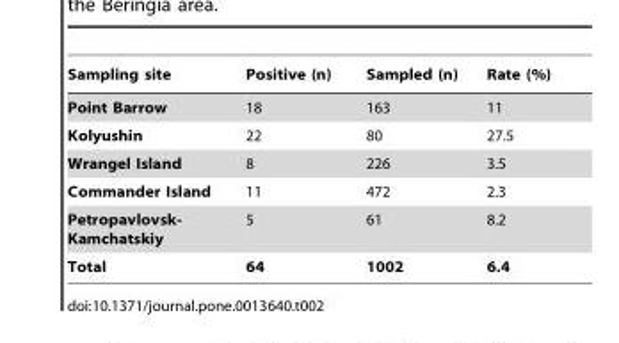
<table><thead><tr><td>Sampling site</td><td>Positive (n)</td><td>Sampled (n)</td><td>Rate (%)</td></tr></thead><tbody><tr><td>Point Barrow</td><td>18</td><td>163</td><td>11</td></tr><tr><td>Kolyushin</td><td>22</td><td>80</td><td>27.5</td></tr><tr><td>Wrangel Island</td><td>8</td><td>226</td><td>3.5</td></tr><tr><td>Commander Island</td><td>11</td><td>472</td><td>2.3</td></tr><tr><td>Petropavlovsk- Kamchatskiy</td><td>5</td><td>61</td><td>8.2</td></tr><tr><td>Total</td><td>64</td><td>1002</td><td>6.4</td></tr></tbody></table>